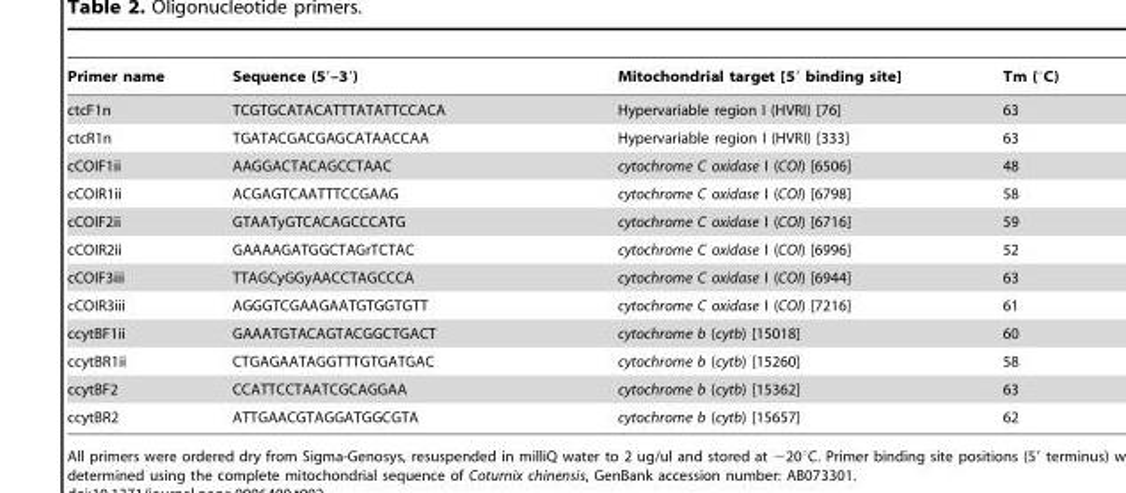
<table><thead><tr><td>Primer name</td><td>Sequence (5′–3′)</td><td>Mitochondrial target [5′ binding site]</td><td>Tm (°C)</td></tr></thead><tbody><tr><td>ctcF1n</td><td>TCGTGCATACATTTATATTCCACA</td><td>Hypervariable region I (HVRI) [76]</td><td>63</td></tr><tr><td>ctcR1n</td><td>TGATACGACGAGCATAACCAA</td><td>Hypervariable region I (HVRI) [333]</td><td>63</td></tr><tr><td>cCOIF1ii</td><td>AAGGACTACAGCCTAAC</td><td>cytochrome C oxidase I (COI) [6506]</td><td>48</td></tr><tr><td>cCOIR1ii</td><td>ACGAGTCAATTTCCGAAG</td><td>cytochrome C oxidase I (COI) [6798]</td><td>58</td></tr><tr><td>cCOIF2ii</td><td>GTAATyGTCACAGCCCATG</td><td>cytochrome C oxidase I (COI) [6716]</td><td>59</td></tr><tr><td>cCOIR2ii</td><td>GAAAAGATGGCTAGrTCTAC</td><td>cytochrome C oxidase I (COI) [6996]</td><td>52</td></tr><tr><td>cCOIF3iii</td><td>TTAGCyGGyAACCTAGCCCA</td><td>cytochrome C oxidase I (COI) [6944]</td><td>63</td></tr><tr><td>cCOIR3iii</td><td>AGGGTCGAAGAATGTGGTGTT</td><td>cytochrome C oxidase I (COI) [7216]</td><td>61</td></tr><tr><td>ccytBF1ii</td><td>GAAATGTACAGTACGGCTGACT</td><td>cytochrome b (cytb) [15018]</td><td>60</td></tr><tr><td>ccytBR1ii</td><td>CTGAGAATAGGTTTGTGATGAC</td><td>cytochrome b (cytb) [15260]</td><td>58</td></tr><tr><td>ccytBF2</td><td>CCATTCCTAATCGCAGGAA</td><td>cytochrome b (cytb) [15362]</td><td>63</td></tr><tr><td>ccytBR2</td><td>ATTGAACGTAGGATGGCGTA</td><td>cytochrome b (cytb) [15657]</td><td>62</td></tr></tbody></table>